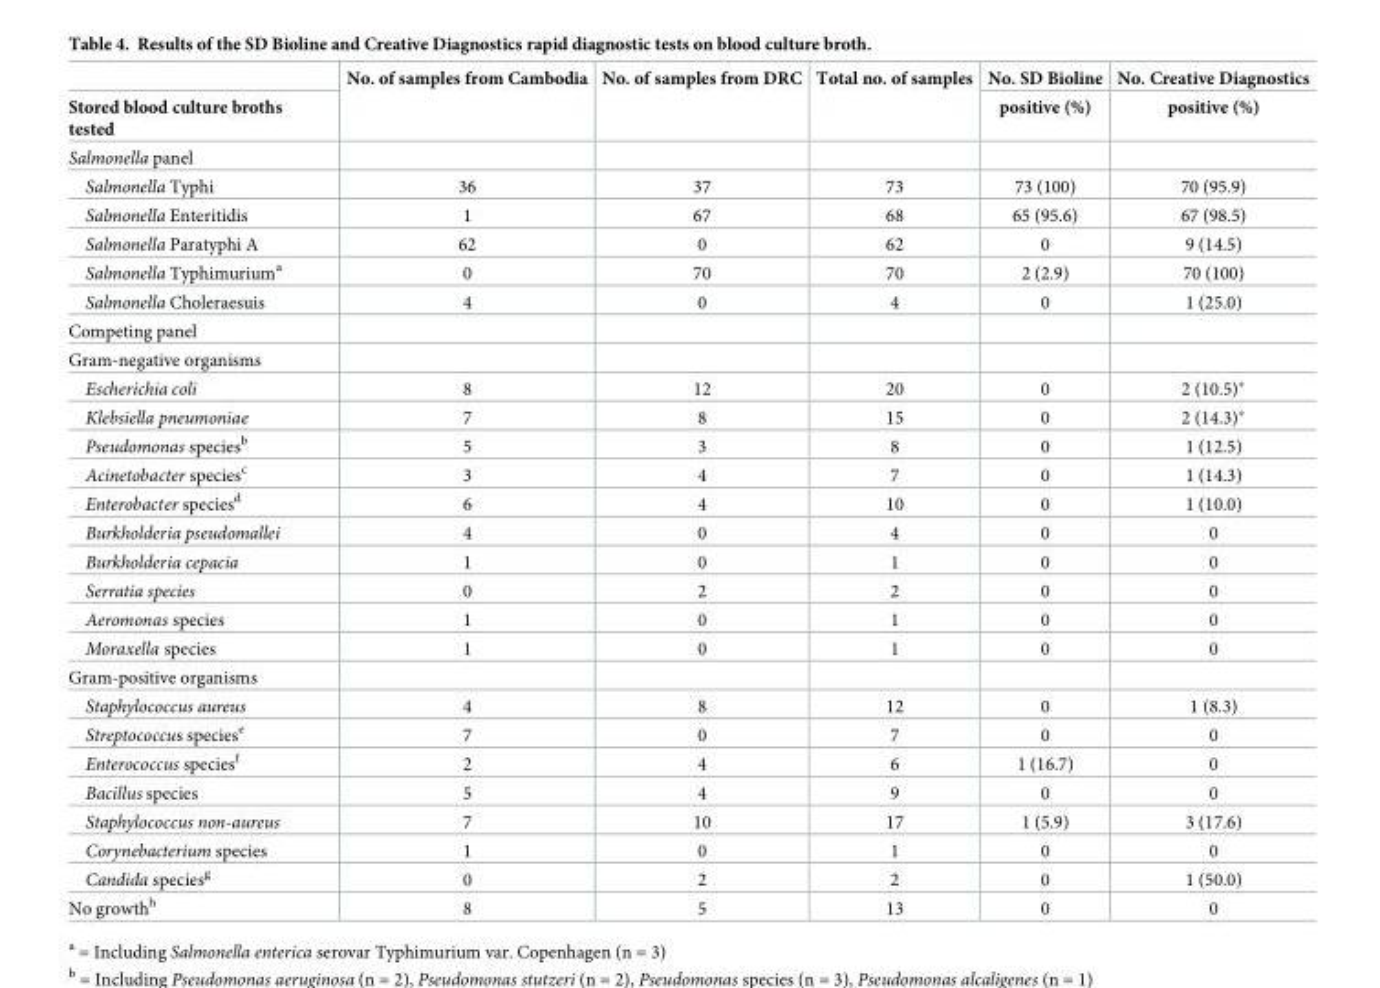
<table><thead><tr><td rowspan="2">Stored blood culture broths tested</td><td rowspan="2">No. of samples from Cambodia</td><td rowspan="2">No. of samples from DRC</td><td rowspan="2">Total no. of samples</td><td rowspan="2">No. SD Bioline positive (%)</td><td rowspan="2">No. Creative Diagnostics positive (%)</td></tr><tr></tr></thead><tbody><tr><td colspan="6">Salmonella panel</td></tr><tr><td>Salmonella Typhi</td><td>36</td><td>37</td><td>73</td><td>73 (100)</td><td>70 (95.9)</td></tr><tr><td>Salmonella Enteritidis</td><td>1</td><td>67</td><td>68</td><td>65 (95.6)</td><td>67 (98.5)</td></tr><tr><td>Salmonella Paratyphi A</td><td>62</td><td>0</td><td>62</td><td>0</td><td>9 (14.5)</td></tr><tr><td>Salmonella Typhimurium<sup>a</sup></td><td>0</td><td>70</td><td>70</td><td>2 (2.9)</td><td>70 (100)</td></tr><tr><td>Salmonella Choleraesuis</td><td>4</td><td>0</td><td>4</td><td>0</td><td>1 (25.0)</td></tr><tr><td colspan="6">Competing panel</td></tr><tr><td colspan="6">Gram-negative organisms</td></tr><tr><td>Escherichia coli</td><td>8</td><td>12</td><td>20</td><td>0</td><td>2 (10.5)*</td></tr><tr><td>Klebsiella pneumoniae</td><td>7</td><td>8</td><td>15</td><td>0</td><td>2 (14.3)*</td></tr><tr><td>Pseudomonas species<sup>b</sup></td><td>5</td><td>3</td><td>8</td><td>0</td><td>1 (12.5)</td></tr><tr><td>Acinetobacter species<sup>c</sup></td><td>3</td><td>4</td><td>7</td><td>0</td><td>1 (14.3)</td></tr><tr><td>Enterobacter species<sup>d</sup></td><td>6</td><td>4</td><td>10</td><td>0</td><td>1 (10.0)</td></tr><tr><td>Burkholderia pseudomallei</td><td>4</td><td>0</td><td>4</td><td>0</td><td>0</td></tr><tr><td>Burkholderia cepacia</td><td>1</td><td>0</td><td>1</td><td>0</td><td>0</td></tr><tr><td>Serratia species</td><td>0</td><td>2</td><td>2</td><td>0</td><td>0</td></tr><tr><td>Aeromonas species</td><td>1</td><td>0</td><td>1</td><td>0</td><td>0</td></tr><tr><td>Moraxella species</td><td>1</td><td>0</td><td>1</td><td>0</td><td>0</td></tr><tr><td colspan="6">Gram-positive organisms</td></tr><tr><td>Staphylococcus aureus</td><td>4</td><td>8</td><td>12</td><td>0</td><td>1 (8.3)</td></tr><tr><td>Streptococcus species<sup>e</sup></td><td>7</td><td>0</td><td>7</td><td>0</td><td>0</td></tr><tr><td>Enterococcus species<sup>f</sup></td><td>2</td><td>4</td><td>6</td><td>1 (16.7)</td><td>0</td></tr><tr><td>Bacillus species</td><td>5</td><td>4</td><td>9</td><td>0</td><td>0</td></tr><tr><td>Staphylococcus non-aureus</td><td>7</td><td>10</td><td>17</td><td>1 (5.9)</td><td>3 (17.6)</td></tr><tr><td>Corynebacterium species</td><td>1</td><td>0</td><td>1</td><td>0</td><td>0</td></tr><tr><td>Candida species<sup>g</sup></td><td>0</td><td>2</td><td>2</td><td>0</td><td>1 (50.0)</td></tr><tr><td>No growth<sup>h</sup></td><td>8</td><td>5</td><td>13</td><td>0</td><td>0</td></tr></tbody></table>